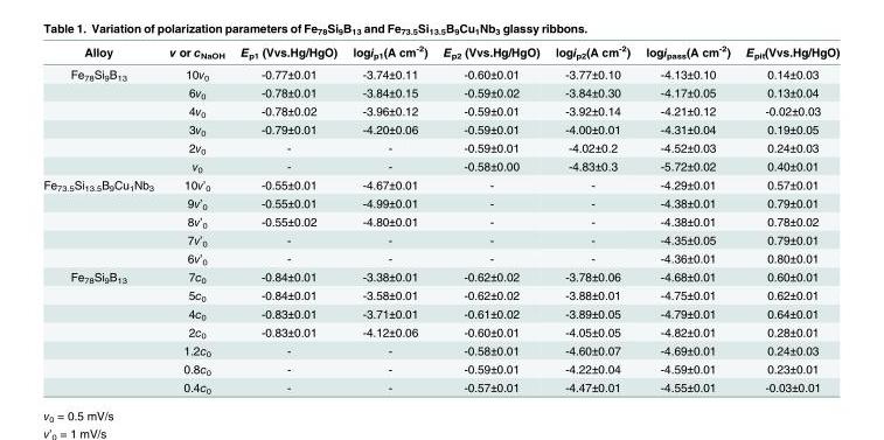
<table><thead><tr><td>Alloy</td><td>v or c<sub>NaOH</sub></td><td>E<sub>p1</sub> (Vvs.Hg/HgO)</td><td>logi<sub>p1</sub>(A cm<sup>-2</sup>)</td><td>E<sub>p2</sub> (Vvs.Hg/HgO)</td><td>logi<sub>p2</sub>(A cm<sup>-2</sup>)</td><td>logi<sub>pass</sub>(A cm<sup>-2</sup>)</td><td>E<sub>pit</sub>(Vvs.Hg/HgO)</td></tr></thead><tbody><tr><td rowspan="6">Fe<sub>78</sub>Si<sub>9</sub>B<sub>13</sub></td><td>10v<sub>0</sub></td><td>-0.77±0.01</td><td>-3.74±0.11</td><td>-0.60±0.01</td><td>-3.77±0.10</td><td>-4.13±0.10</td><td>0.14±0.03</td></tr><tr><td>6v<sub>0</sub></td><td>-0.78±0.01</td><td>-3.84±0.15</td><td>-0.59±0.02</td><td>-3.84±0.30</td><td>-4.17±0.05</td><td>0.13±0.04</td></tr><tr><td>4v<sub>0</sub></td><td>-0.78±0.02</td><td>-3.96±0.12</td><td>-0.59±0.01</td><td>-3.92±0.14</td><td>-4.21±0.12</td><td>-0.02±0.03</td></tr><tr><td>3v<sub>0</sub></td><td>-0.79±0.01</td><td>-4.20±0.06</td><td>-0.59±0.01</td><td>-4.00±0.01</td><td>-4.31±0.04</td><td>0.19±0.05</td></tr><tr><td>2v<sub>0</sub></td><td>-</td><td>-</td><td>-0.59±0.01</td><td>-4.02±0.2</td><td>-4.52±0.03</td><td>0.24±0.03</td></tr><tr><td>v<sub>0</sub></td><td>-</td><td>-</td><td>-0.58±0.00</td><td>-4.83±0.3</td><td>-5.72±0.02</td><td>0.40±0.01</td></tr><tr><td rowspan="5">Fe<sub>73.5</sub>Si<sub>13.5</sub>B<sub>9</sub>Cu<sub>1</sub>Nb<sub>3</sub></td><td>10v’<sub>0</sub></td><td>-0.55±0.01</td><td>-4.67±0.01</td><td>-</td><td>-</td><td>-4.29±0.01</td><td>0.57±0.01</td></tr><tr><td>9v’<sub>0</sub></td><td>-0.55±0.01</td><td>-4.99±0.01</td><td>-</td><td>-</td><td>-4.38±0.01</td><td>0.79±0.01</td></tr><tr><td>8v’<sub>0</sub></td><td>-0.55±0.02</td><td>-4.80±0.01</td><td>-</td><td>-</td><td>-4.38±0.01</td><td>0.78±0.02</td></tr><tr><td>7v’<sub>0</sub></td><td>-</td><td>-</td><td>-</td><td>-</td><td>-4.35±0.05</td><td>0.79±0.01</td></tr><tr><td>6v’<sub>0</sub></td><td>-</td><td>-</td><td>-</td><td>-</td><td>-4.36±0.01</td><td>0.80±0.01</td></tr><tr><td rowspan="7">Fe<sub>78</sub>Si<sub>9</sub>B<sub>13</sub></td><td>7c<sub>0</sub></td><td>-0.84±0.01</td><td>-3.38±0.01</td><td>-0.62±0.02</td><td>-3.78±0.06</td><td>-4.68±0.01</td><td>0.60±0.01</td></tr><tr><td>5c<sub>0</sub></td><td>-0.84±0.01</td><td>-3.58±0.01</td><td>-0.62±0.02</td><td>-3.88±0.01</td><td>-4.75±0.01</td><td>0.62±0.01</td></tr><tr><td>4c<sub>0</sub></td><td>-0.83±0.01</td><td>-3.71±0.01</td><td>-0.61±0.02</td><td>-3.89±0.05</td><td>-4.79±0.01</td><td>0.64±0.01</td></tr><tr><td>2c<sub>0</sub></td><td>-0.83±0.01</td><td>-4.12±0.06</td><td>-0.60±0.01</td><td>-4.05±0.05</td><td>-4.82±0.01</td><td>0.28±0.01</td></tr><tr><td>1.2c<sub>0</sub></td><td>-</td><td>-</td><td>-0.58±0.01</td><td>-4.60±0.07</td><td>-4.69±0.01</td><td>0.24±0.03</td></tr><tr><td>0.8c<sub>0</sub></td><td>-</td><td>-</td><td>-0.59±0.01</td><td>-4.22±0.04</td><td>-4.59±0.01</td><td>0.23±0.01</td></tr><tr><td>0.4c<sub>0</sub></td><td>-</td><td>-</td><td>-0.57±0.01</td><td>-4.47±0.01</td><td>-4.55±0.01</td><td>-0.03±0.01</td></tr></tbody></table>